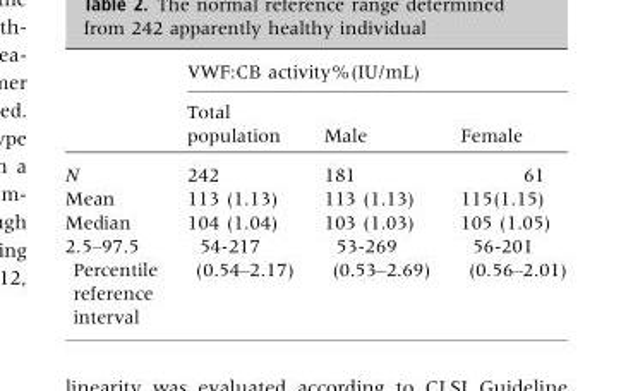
<table><thead><tr><td rowspan="2"></td><td colspan="3">VWF:CB activity%(IU/mL)</td></tr><tr><td>Total population</td><td>Male</td><td>Female</td></tr></thead><tbody><tr><td>N</td><td>242</td><td>181</td><td>61</td></tr><tr><td>Mean</td><td>113 (1.13)</td><td>113 (1.13)</td><td>115(1.15)</td></tr><tr><td>Median</td><td>104 (1.04)</td><td>103 (1.03)</td><td>105 (1.05)</td></tr><tr><td>2.5–97.5 Percentile reference interval</td><td>54-217 (0.54–2.17)</td><td>53-269 (0.53–2.69)</td><td>56-201 (0.56–2.01)</td></tr></tbody></table>